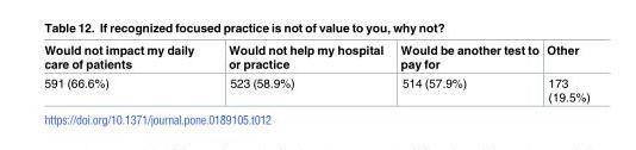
<table><thead><tr><td>Would not impact my daily care of patients</td><td>Would not help my hospital or practice</td><td>Would be another test to pay for</td><td>Other</td></tr></thead><tbody><tr><td>591 (66.6%)</td><td>523 (58.9%)</td><td>514 (57.9%)</td><td>173 (19.5%)</td></tr></tbody></table>